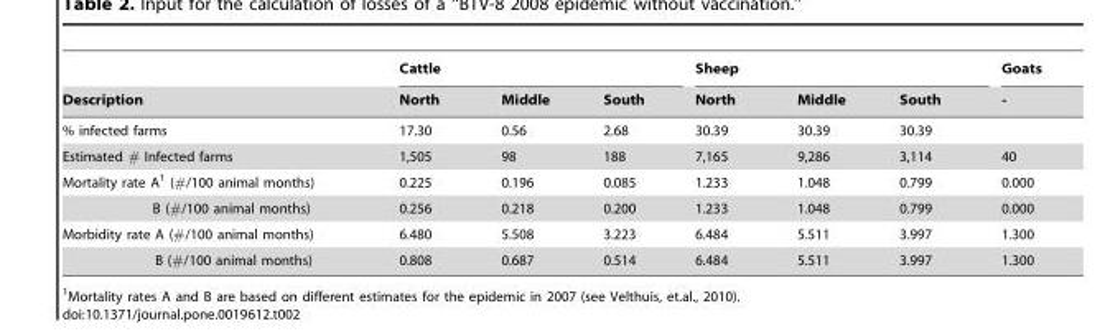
<table><thead><tr><td rowspan="2">Description</td><td colspan="3">Cattle</td><td colspan="3">Sheep</td><td rowspan="2">Goats -</td></tr><tr><td>North</td><td>Middle</td><td>South</td><td>North</td><td>Middle</td><td>South</td></tr></thead><tbody><tr><td>% infected farms</td><td>17.30</td><td>0.56</td><td>2.68</td><td>30.39</td><td>30.39</td><td>30.39</td><td></td></tr><tr><td>Estimated # Infected farms</td><td>1,505</td><td>98</td><td>188</td><td>7,165</td><td>9,286</td><td>3,114</td><td>40</td></tr><tr><td>Mortality rate A<sup>1</sup> (#/100 animal months)</td><td>0.225</td><td>0.196</td><td>0.085</td><td>1.233</td><td>1.048</td><td>0.799</td><td>0.000</td></tr><tr><td>B (#/100 animal months)</td><td>0.256</td><td>0.218</td><td>0.200</td><td>1.233</td><td>1.048</td><td>0.799</td><td>0.000</td></tr><tr><td>Morbidity rate A (#/100 animal months)</td><td>6.480</td><td>5.508</td><td>3.223</td><td>6.484</td><td>5.511</td><td>3.997</td><td>1.300</td></tr><tr><td>B (#/100 animal months)</td><td>0.808</td><td>0.687</td><td>0.514</td><td>6.484</td><td>5.511</td><td>3.997</td><td>1.300</td></tr></tbody></table>